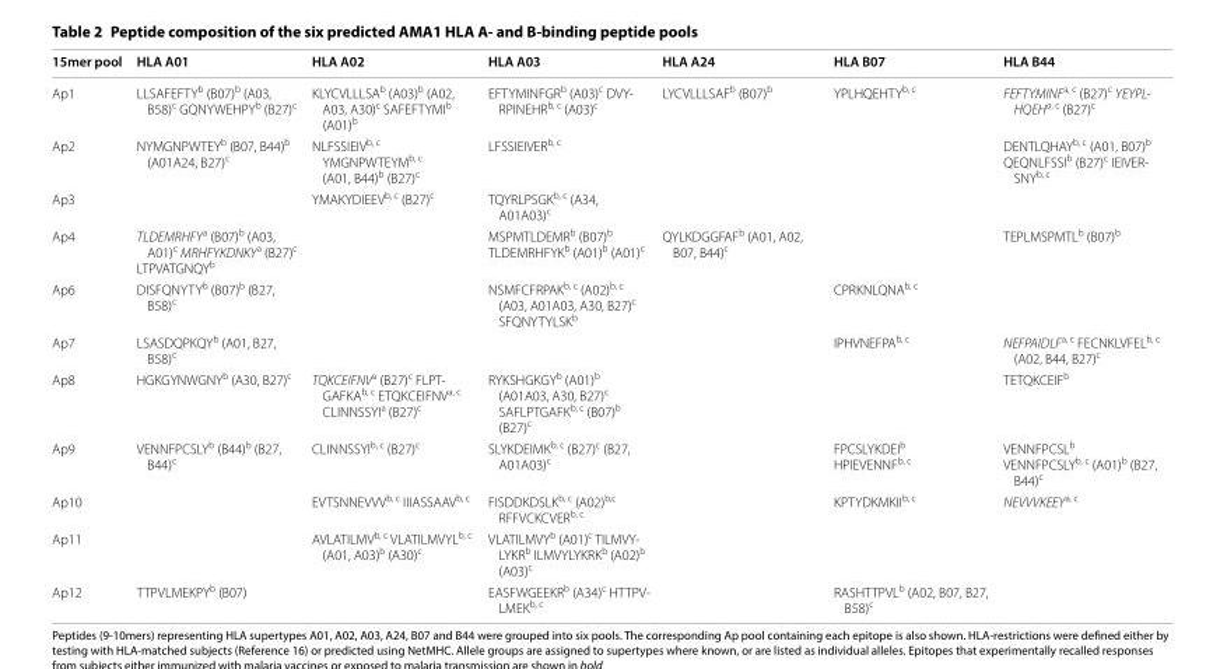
<table><thead><tr><td>15mer pool</td><td>HLA A01</td><td>HLA A02</td><td>HLA A03</td><td>HLA A24</td><td>HLA B07</td><td>HLA B44</td></tr></thead><tbody><tr><td>Ap1</td><td>LLSAFEFTY<sup>b</sup> (B07)<sup>b</sup> (A03, B58)<sup>c</sup> GQNYWEHPY<sup>b</sup> (B27)<sup>c</sup></td><td>KLYCVLLLSA<sup>b</sup> (A03)<sup>b</sup> (A02, A03, A30)<sup>c</sup> SAFEFTYMI<sup>b</sup> (A01)<sup>b</sup></td><td>EFTYMINFGRb (A03)c DVY- RPINEHRb, c (A03)c</td><td>LYCVLLLSAF<sup>b</sup> (B07)<sup>b</sup></td><td>YPLHQEHTY<sup>b, c</sup></td><td>FEFTYMINFa, c (B27)c YEYPL- HQEHa, c (B27)c</td></tr><tr><td>Ap2</td><td>NYMGNPWTEY<sup>b</sup> (B07, B44)<sup>b</sup> (A01A24, B27)<sup>c</sup></td><td>NLFSSIEIV<sup>b, c</sup> YMGNPWTEYM<sup>b, c</sup> (A01, B44)<sup>b</sup> (B27)<sup>c</sup></td><td>LFSSIEIVER<sup>b, c</sup></td><td></td><td></td><td>DENTLQHAYb, c (A01, B07)b QEQNLFSSIb (B27)c IEIVER- SNYb, c</td></tr><tr><td>Ap3</td><td></td><td>YMAKYDIEEV<sup>b, c</sup> (B27)<sup>c</sup></td><td>TQYRLPSGK<sup>b, c</sup> (A34, A01A03)<sup>c</sup></td><td></td><td></td><td></td></tr><tr><td>Ap4</td><td>TLDEMRHFY<sup>a</sup> (B07)<sup>b</sup> (A03, A01)<sup>c</sup> MRHFYKDNKY<sup>a</sup> (B27)<sup>c</sup> LTPVATGNQY<sup>b</sup></td><td></td><td>MSPMTLDEMR<sup>b</sup> (B07)<sup>b</sup> TLDEMRHFYK<sup>b</sup> (A01)<sup>b</sup> (A01)<sup>c</sup></td><td>QYLKDGGFAF<sup>b</sup> (A01, A02, B07, B44)<sup>c</sup></td><td></td><td>TEPLMSPMTL<sup>b</sup> (B07)<sup>b</sup></td></tr><tr><td>Ap6</td><td>DISFQNYTY<sup>b</sup> (B07)<sup>b</sup> (B27, B58)<sup>c</sup></td><td></td><td>NSMFCFRPAK<sup>b, c</sup> (A02)<sup>b, c</sup> (A03, A01A03, A30, B27)<sup>c</sup> SFQNYTYLSK<sup>b</sup></td><td></td><td>CPRKNLQNA<sup>b, c</sup></td><td></td></tr><tr><td>Ap7</td><td>LSASDQPKQY<sup>b</sup> (A01, B27, B58)<sup>c</sup></td><td></td><td></td><td></td><td>IPHVNEFPA<sup>b, c</sup></td><td>NEFPAIDLF<sup>a, c</sup> FECNKLVFEL<sup>b, c</sup> (A02, B44, B27)<sup>c</sup></td></tr><tr><td>Ap8</td><td>HGKGYNWGNY<sup>b</sup> (A30, B27)<sup>c</sup></td><td>TQKCEIFNVa (B27)c FLPT- GAFKAb, c ETQKCEIFNVa, c CLINNSSYIa (B27)c</td><td>RYKSHGKGY<sup>b</sup> (A01)<sup>b</sup> (A01A03, A30, B27)<sup>c</sup> SAFLPTGAFK<sup>b, c</sup> (B07)<sup>b</sup> (B27)<sup>c</sup></td><td></td><td></td><td>TETQKCEIF<sup>b</sup></td></tr><tr><td>Ap9</td><td>VENNFPCSLY<sup>b</sup> (B44)<sup>b</sup> (B27, B44)<sup>c</sup></td><td>CLINNSSYI<sup>b, c</sup> (B27)<sup>c</sup></td><td>SLYKDEIMK<sup>b, c</sup> (B27)<sup>c</sup> (B27, A01A03)<sup>c</sup></td><td></td><td>FPCSLYKDEI<sup>b</sup> HPIEVENNF<sup>b, c</sup></td><td>VENNFPCSL<sup>b</sup> VENNFPCSLY<sup>b, c</sup> (A01)<sup>b</sup> (B27, B44)<sup>c</sup></td></tr><tr><td>Ap10</td><td></td><td>EVTSNNEVVV<sup>b, c</sup> IIIASSAAV<sup>b, c</sup></td><td>FISDDKDSLK<sup>b, c</sup> (A02)<sup>b,c</sup> RFFVCKCVER<sup>b, c</sup></td><td></td><td>KPTYDKMKII<sup>b, c</sup></td><td>NEVVVKEEY<sup>a, c</sup></td></tr><tr><td>Ap11</td><td></td><td>AVLATILMV<sup>b, c</sup> VLATILMVYL<sup>b, c</sup> (A01, A03)<sup>b</sup> (A30)<sup>c</sup></td><td>VLATILMVYb (A01)c TILMVY- LYKRb ILMVYLYKRKb (A02)b (A03)c</td><td></td><td></td><td></td></tr><tr><td>Ap12</td><td>TTPVLMEKPY<sup>b</sup> (B07)</td><td></td><td>EASFWGEEKRb (A34)c HTTPV- LMEKb, c</td><td></td><td>RASHTTPVL<sup>b</sup> (A02, B07, B27, B58)<sup>c</sup></td><td></td></tr></tbody></table>